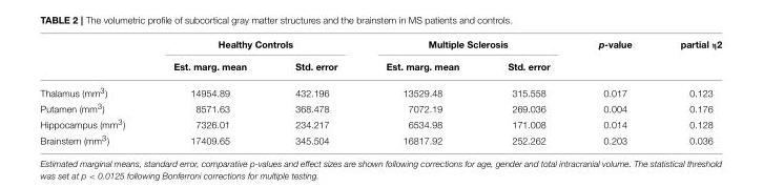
<table><thead><tr><td rowspan="2"></td><td colspan="2">Healthy Controls</td><td colspan="2">Multiple Sclerosis</td><td rowspan="2">p-value</td><td rowspan="2">partial η2</td></tr><tr><td>Est. marg. mean</td><td>Std. error</td><td>Est. marg. mean</td><td>Std. error</td></tr></thead><tbody><tr><td>Thalamus (mm<sup>3</sup>)</td><td>14954.89</td><td>432.196</td><td>13529.48</td><td>315.558</td><td>0.017</td><td>0.123</td></tr><tr><td>Putamen (mm<sup>3</sup>)</td><td>8571.63</td><td>368.478</td><td>7072.19</td><td>269.036</td><td>0.004</td><td>0.176</td></tr><tr><td>Hippocampus (mm<sup>3</sup>)</td><td>7326.01</td><td>234.217</td><td>6534.98</td><td>171.008</td><td>0.014</td><td>0.128</td></tr><tr><td>Brainstem (mm<sup>3</sup>)</td><td>17409.65</td><td>345.504</td><td>16817.92</td><td>252.262</td><td>0.203</td><td>0.036</td></tr></tbody></table>